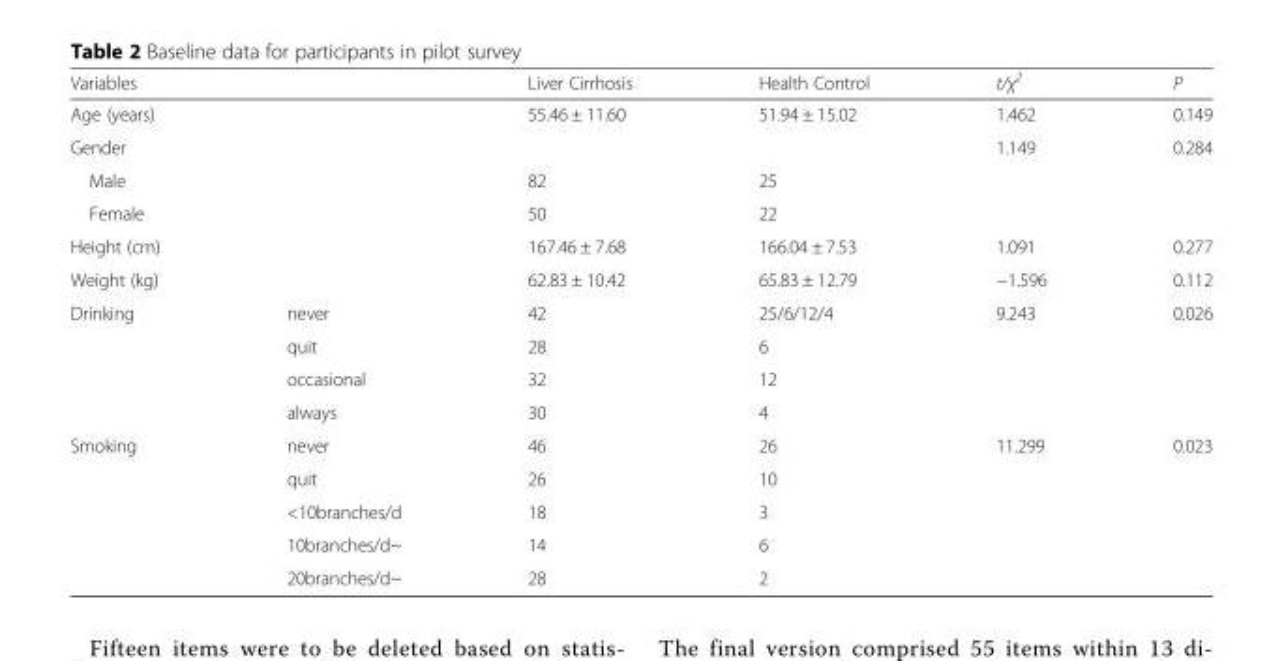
<table><thead><tr><td>Variables</td><td></td><td>Liver Cirrhosis</td><td>Health Control</td><td>t/χ<sup>2</sup></td><td>P</td></tr></thead><tbody><tr><td>Age (years)</td><td></td><td>55.46 ± 11.60</td><td>51.94 ± 15.02</td><td>1.462</td><td>0.149</td></tr><tr><td colspan="4">Gender</td><td rowspan="3">1.149</td><td rowspan="3">0.284</td></tr><tr><td>Male</td><td></td><td>82</td><td>25</td></tr><tr><td>Female</td><td></td><td>50</td><td>22</td></tr><tr><td>Height (cm)</td><td></td><td>167.46 ± 7.68</td><td>166.04 ± 7.53</td><td>1.091</td><td>0.277</td></tr><tr><td>Weight (kg)</td><td></td><td>62.83 ± 10.42</td><td>65.83 ± 12.79</td><td>−1.596</td><td>0.112</td></tr><tr><td rowspan="4">Drinking</td><td>never</td><td>42</td><td>25/6/12/4</td><td>9.243</td><td>0.026</td></tr><tr><td>quit</td><td>28</td><td>6</td><td></td><td></td></tr><tr><td>occasional</td><td>32</td><td>12</td><td></td><td></td></tr><tr><td>always</td><td>30</td><td>4</td><td></td><td></td></tr><tr><td rowspan="5">Smoking</td><td>never</td><td>46</td><td>26</td><td>11.299</td><td>0.023</td></tr><tr><td>quit</td><td>26</td><td>10</td><td></td><td></td></tr><tr><td>&lt;10branches/d</td><td>18</td><td>3</td><td></td><td></td></tr><tr><td>10branches/d~</td><td>14</td><td>6</td><td></td><td></td></tr><tr><td>20branches/d~</td><td>28</td><td>2</td><td></td><td></td></tr></tbody></table>